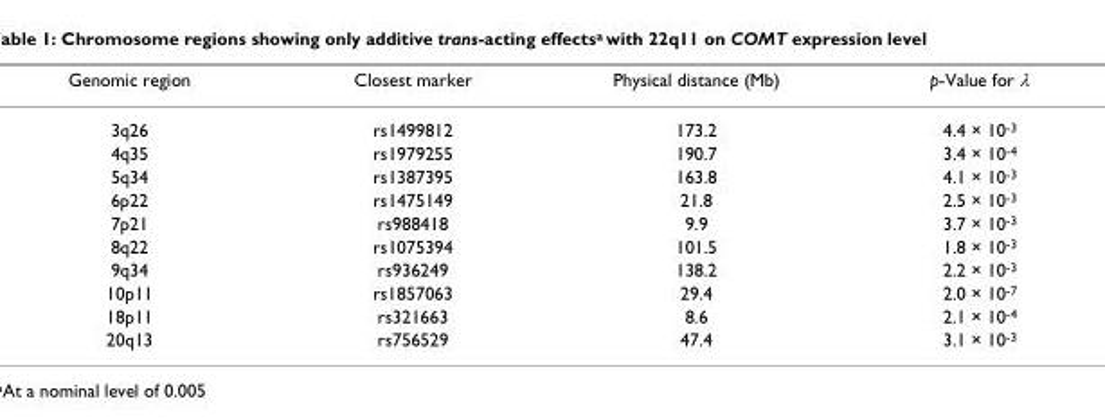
<table><thead><tr><td>Genomic region</td><td>Closest marker</td><td>Physical distance (Mb)</td><td>p-Value for λ</td></tr></thead><tbody><tr><td>3q26</td><td>rs1499812</td><td>173.2</td><td>4.4 × 10<sup>-3</sup></td></tr><tr><td>4q35</td><td>rs1979255</td><td>190.7</td><td>3.4 × 10<sup>-4</sup></td></tr><tr><td>5q34</td><td>rs1387395</td><td>163.8</td><td>4.1 × 10<sup>-3</sup></td></tr><tr><td>6p22</td><td>rs1475149</td><td>21.8</td><td>2.5 × 10<sup>-3</sup></td></tr><tr><td>7p21</td><td>rs988418</td><td>9.9</td><td>3.7 × 10<sup>-3</sup></td></tr><tr><td>8q22</td><td>rs1075394</td><td>101.5</td><td>1.8 × 10<sup>-3</sup></td></tr><tr><td>9q34</td><td>rs936249</td><td>138.2</td><td>2.2 × 10<sup>-3</sup></td></tr><tr><td>10p11</td><td>rs1857063</td><td>29.4</td><td>2.0 × 10<sup>-7</sup></td></tr><tr><td>18p11</td><td>rs321663</td><td>8.6</td><td>2.1 × 10<sup>-4</sup></td></tr><tr><td>20q13</td><td>rs756529</td><td>47.4</td><td>3.1 × 10<sup>-3</sup></td></tr></tbody></table>